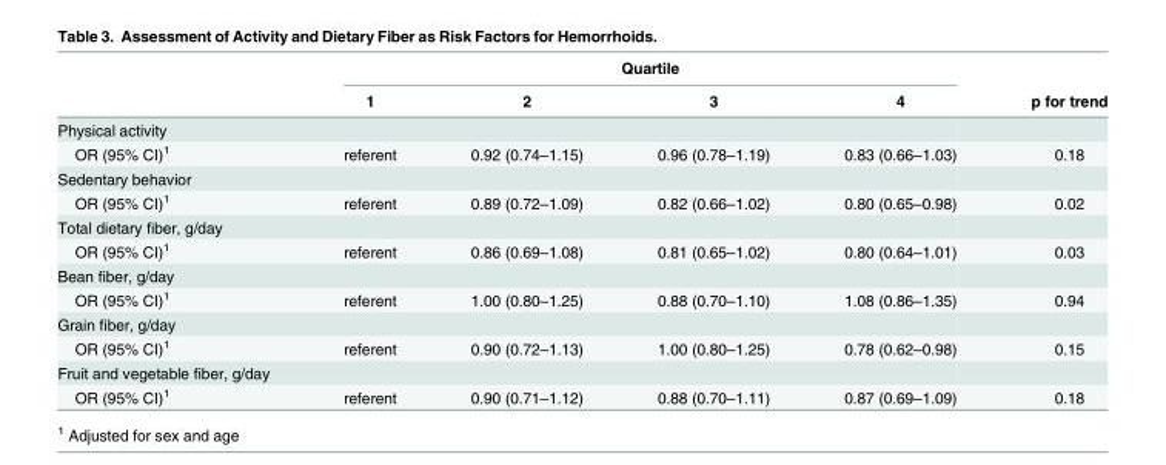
<table><thead><tr><td rowspan="2"></td><td colspan="4">Quartile</td><td rowspan="2">p for trend</td></tr><tr><td>1</td><td>2</td><td>3</td><td>4</td></tr></thead><tbody><tr><td colspan="6">Physical activity</td></tr><tr><td>OR (95% CI)<sup>1</sup></td><td>referent</td><td>0.92 (0.74–1.15)</td><td>0.96 (0.78–1.19)</td><td>0.83 (0.66–1.03)</td><td>0.18</td></tr><tr><td colspan="6">Sedentary behavior</td></tr><tr><td>OR (95% CI)<sup>1</sup></td><td>referent</td><td>0.89 (0.72–1.09)</td><td>0.82 (0.66–1.02)</td><td>0.80 (0.65–0.98)</td><td>0.02</td></tr><tr><td colspan="6">Total dietary fiber, g/day</td></tr><tr><td>OR (95% CI)<sup>1</sup></td><td>referent</td><td>0.86 (0.69–1.08)</td><td>0.81 (0.65–1.02)</td><td>0.80 (0.64–1.01)</td><td>0.03</td></tr><tr><td colspan="6">Bean fiber, g/day</td></tr><tr><td>OR (95% CI)<sup>1</sup></td><td>referent</td><td>1.00 (0.80–1.25)</td><td>0.88 (0.70–1.10)</td><td>1.08 (0.86–1.35)</td><td>0.94</td></tr><tr><td colspan="6">Grain fiber, g/day</td></tr><tr><td>OR (95% CI)<sup>1</sup></td><td>referent</td><td>0.90 (0.72–1.13)</td><td>1.00 (0.80–1.25)</td><td>0.78 (0.62–0.98)</td><td>0.15</td></tr><tr><td colspan="6">Fruit and vegetable fiber, g/day</td></tr><tr><td>OR (95% CI)<sup>1</sup></td><td>referent</td><td>0.90 (0.71–1.12)</td><td>0.88 (0.70–1.11)</td><td>0.87 (0.69–1.09)</td><td>0.18</td></tr></tbody></table>